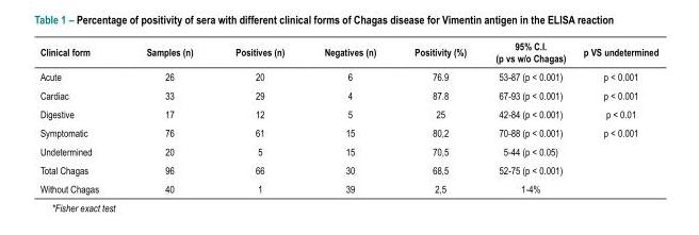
<table><thead><tr><td>Clinical form</td><td>Samples (n)</td><td>Positives (n)</td><td>Negatives (n)</td><td>Positivity (%)</td><td>95% C.I. (p vs w/o Chagas)</td><td>p VS undetermined</td></tr></thead><tbody><tr><td>Acute</td><td>26</td><td>20</td><td>6</td><td>76.9</td><td>53-87 (p &lt; 0.001)</td><td>p &lt; 0.001</td></tr><tr><td>Cardiac</td><td>33</td><td>29</td><td>4</td><td>87.8</td><td>67-93 (p &lt; 0.001)</td><td>p &lt; 0.001</td></tr><tr><td>Digestive</td><td>17</td><td>12</td><td>5</td><td>25</td><td>42-84 (p &lt; 0.001)</td><td>p &lt; 0.01</td></tr><tr><td>Symptomatic</td><td>76</td><td>61</td><td>15</td><td>80,2</td><td>70-88 (p &lt; 0.001)</td><td>p &lt; 0.001</td></tr><tr><td>Undetermined</td><td>20</td><td>5</td><td>15</td><td>70,5</td><td>5-44 (p &lt; 0.05)</td><td></td></tr><tr><td>Total Chagas</td><td>96</td><td>66</td><td>30</td><td>68,5</td><td>52-75 (p &lt; 0.001)</td><td></td></tr><tr><td>Without Chagas</td><td>40</td><td>1</td><td>39</td><td>2,5</td><td>1-4%</td><td></td></tr></tbody></table>